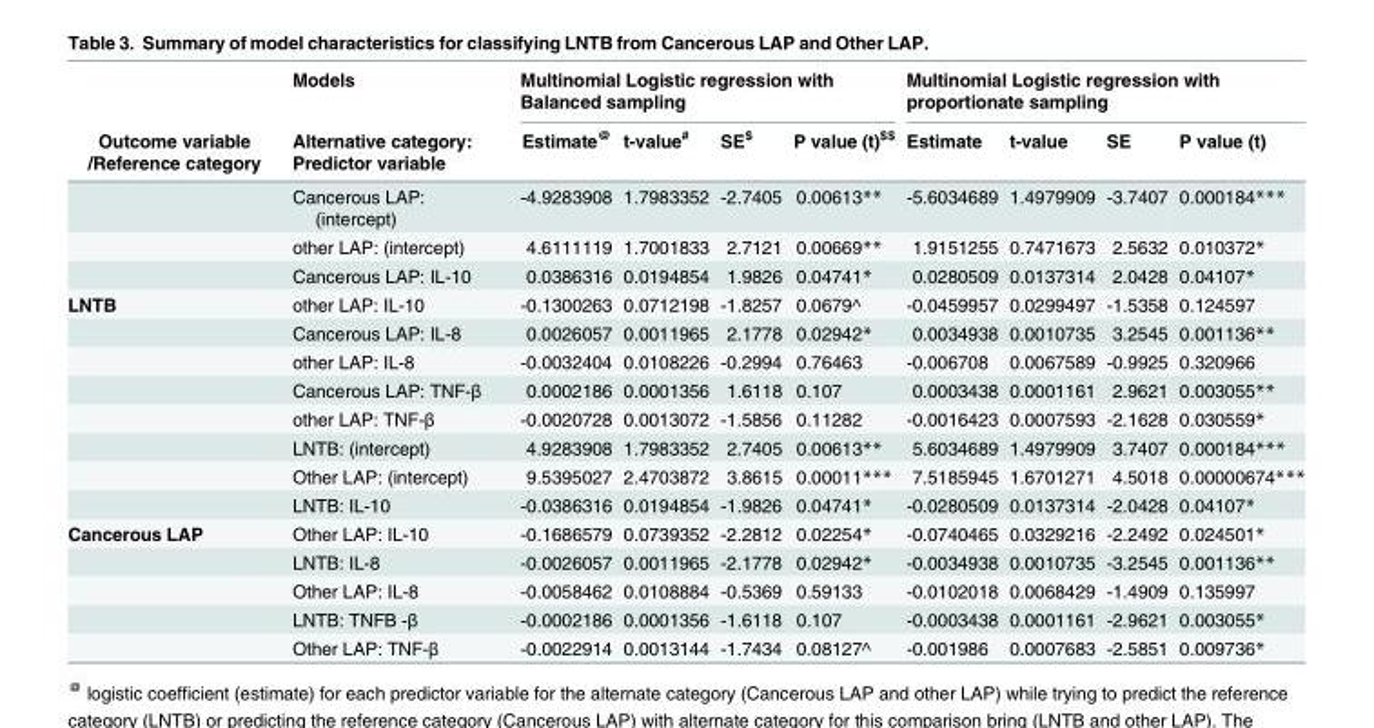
<table><thead><tr><td rowspan="2">Outcome variable /Reference category</td><td rowspan="2">Models Alternative category: Predictor variable</td><td colspan="4">Multinomial Logistic regression with Balanced sampling</td><td colspan="4">Multinomial Logistic regression with proportionate sampling</td></tr><tr><td>Estimate<sup>@</sup></td><td>t-value<sup>#</sup></td><td>SE<sup>$</sup></td><td>P value (t)<sup>$$</sup></td><td>Estimate</td><td>t-value</td><td>SE</td><td>P value (t)</td></tr></thead><tbody><tr><td></td><td>Cancerous LAP: (intercept)</td><td>-4.9283908</td><td>1.7983352</td><td>-2.7405</td><td>0.00613**</td><td>-5.6034689</td><td>1.4979909</td><td>-3.7407</td><td>0.000184***</td></tr><tr><td></td><td>other LAP: (intercept)</td><td>4.6111119</td><td>1.7001833</td><td>2.7121</td><td>0.00669**</td><td>1.9151255</td><td>0.7471673</td><td>2.5632</td><td>0.010372*</td></tr><tr><td></td><td>Cancerous LAP: IL-10</td><td>0.0386316</td><td>0.0194854</td><td>1.9826</td><td>0.04741*</td><td>0.0280509</td><td>0.0137314</td><td>2.0428</td><td>0.04107*</td></tr><tr><td rowspan="8">LNTB</td><td>other LAP: IL-10</td><td>-0.1300263</td><td>0.0712198</td><td>-1.8257</td><td>0.0679^</td><td>-0.0459957</td><td>0.0299497</td><td>-1.5358</td><td>0.124597</td></tr><tr><td>Cancerous LAP: IL-8</td><td>0.0026057</td><td>0.0011965</td><td>2.1778</td><td>0.02942*</td><td>0.0034938</td><td>0.0010735</td><td>3.2545</td><td>0.001136**</td></tr><tr><td>other LAP: IL-8</td><td>-0.0032404</td><td>0.0108226</td><td>-0.2994</td><td>0.76463</td><td>-0.006708</td><td>0.0067589</td><td>-0.9925</td><td>0.320966</td></tr><tr><td>Cancerous LAP: TNF-β</td><td>0.0002186</td><td>0.0001356</td><td>1.6118</td><td>0.107</td><td>0.0003438</td><td>0.0001161</td><td>2.9621</td><td>0.003055**</td></tr><tr><td>other LAP: TNF-β</td><td>-0.0020728</td><td>0.0013072</td><td>-1.5856</td><td>0.11282</td><td>-0.0016423</td><td>0.0007593</td><td>-2.1628</td><td>0.030559*</td></tr><tr><td>LNTB: (intercept)</td><td>4.9283908</td><td>1.7983352</td><td>2.7405</td><td>0.00613**</td><td>5.6034689</td><td>1.4979909</td><td>3.7407</td><td>0.000184***</td></tr><tr><td>Other LAP: (intercept)</td><td>9.5395027</td><td>2.4703872</td><td>3.8615</td><td>0.00011***</td><td>7.5185945</td><td>1.6701271</td><td>4.5018</td><td>0.00000674***</td></tr><tr><td>LNTB: IL-10</td><td>-0.0386316</td><td>0.0194854</td><td>-1.9826</td><td>0.04741*</td><td>-0.0280509</td><td>0.0137314</td><td>-2.0428</td><td>0.04107*</td></tr><tr><td rowspan="5">Cancerous LAP</td><td>Other LAP: IL-10</td><td>-0.1686579</td><td>0.0739352</td><td>-2.2812</td><td>0.02254*</td><td>-0.0740465</td><td>0.0329216</td><td>-2.2492</td><td>0.024501*</td></tr><tr><td>LNTB: IL-8</td><td>-0.0026057</td><td>0.0011965</td><td>-2.1778</td><td>0.02942*</td><td>-0.0034938</td><td>0.0010735</td><td>-3.2545</td><td>0.001136**</td></tr><tr><td>Other LAP: IL-8</td><td>-0.0058462</td><td>0.0108884</td><td>-0.5369</td><td>0.59133</td><td>-0.0102018</td><td>0.0068429</td><td>-1.4909</td><td>0.135997</td></tr><tr><td>LNTB: TNFB -β</td><td>-0.0002186</td><td>0.0001356</td><td>-1.6118</td><td>0.107</td><td>-0.0003438</td><td>0.0001161</td><td>-2.9621</td><td>0.003055*</td></tr><tr><td>Other LAP: TNF-β</td><td>-0.0022914</td><td>0.0013144</td><td>-1.7434</td><td>0.08127^</td><td>-0.001986</td><td>0.0007683</td><td>-2.5851</td><td>0.009736*</td></tr></tbody></table>